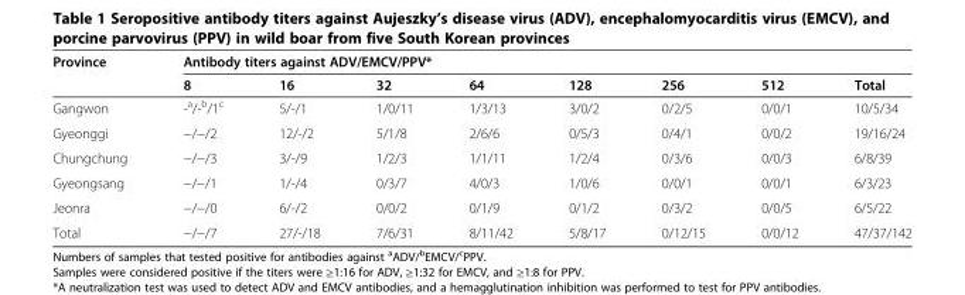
<table><thead><tr><td rowspan="2">Province</td><td colspan="8">Antibody titers against ADV/EMCV/PPV*</td></tr><tr><td>8</td><td>16</td><td>32</td><td>64</td><td>128</td><td>256</td><td>512</td><td>Total</td></tr></thead><tbody><tr><td>Gangwon</td><td>-<sup>a</sup>/-<sup>b</sup>/1<sup>c</sup></td><td>5/-/1</td><td>1/0/11</td><td>1/3/13</td><td>3/0/2</td><td>0/2/5</td><td>0/0/1</td><td>10/5/34</td></tr><tr><td>Gyeonggi</td><td>−/−/2</td><td>12/-/2</td><td>5/1/8</td><td>2/6/6</td><td>0/5/3</td><td>0/4/1</td><td>0/0/2</td><td>19/16/24</td></tr><tr><td>Chungchung</td><td>−/−/3</td><td>3/-/9</td><td>1/2/3</td><td>1/1/11</td><td>1/2/4</td><td>0/3/6</td><td>0/0/3</td><td>6/8/39</td></tr><tr><td>Gyeongsang</td><td>−/−/1</td><td>1/-/4</td><td>0/3/7</td><td>4/0/3</td><td>1/0/6</td><td>0/0/1</td><td>0/0/1</td><td>6/3/23</td></tr><tr><td>Jeonra</td><td>−/−/0</td><td>6/-/2</td><td>0/0/2</td><td>0/1/9</td><td>0/1/2</td><td>0/3/2</td><td>0/0/5</td><td>6/5/22</td></tr><tr><td>Total</td><td>−/−/7</td><td>27/-/18</td><td>7/6/31</td><td>8/11/42</td><td>5/8/17</td><td>0/12/15</td><td>0/0/12</td><td>47/37/142</td></tr></tbody></table>